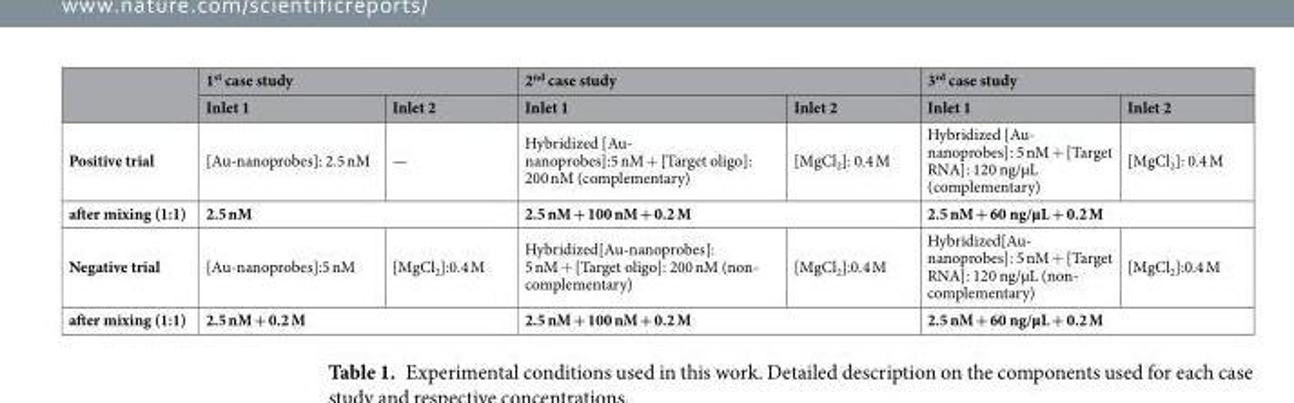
<table><thead><tr><td rowspan="2"></td><td colspan="2">1<sup>st</sup> case study</td><td colspan="2">2<sup>nd</sup> case study</td><td colspan="2">3<sup>rd</sup> case study</td></tr><tr><td>Inlet 1</td><td>Inlet 2</td><td>Inlet 1</td><td>Inlet 2</td><td>Inlet 1</td><td>Inlet 2</td></tr></thead><tbody><tr><td>Positive trial</td><td>[Au-nanoprobes]: 2.5 nM</td><td>—</td><td>Hybridized [Au- nanoprobes]:5 nM + [Target oligo]: 200 nM (complementary)</td><td>[MgCl<sub>2</sub>]: 0.4 M</td><td>Hybridized [Au- nanoprobes]: 5 nM + [Target RNA]: 120 ng/µL (complementary)</td><td>[MgCl<sub>2</sub>]: 0.4 M</td></tr><tr><td>after mixing (1:1)</td><td colspan="2">2.5 nM</td><td colspan="2">2.5 nM + 100 nM + 0.2 M</td><td colspan="2">2.5 nM + 60 ng/µL + 0.2 M</td></tr><tr><td>Negative trial</td><td>[Au-nanoprobes]:5 nM</td><td>[MgCl<sub>2</sub>]:0.4 M</td><td>Hybridized[Au-nanoprobes]: 5 nM + [Target oligo]: 200 nM (non- complementary)</td><td>[MgCl<sub>2</sub>]:0.4 M</td><td>Hybridized[Au- nanoprobes]: 5 nM + [Target RNA]: 120 ng/µL (non- complementary)</td><td>[MgCl<sub>2</sub>]:0.4 M</td></tr><tr><td>after mixing (1:1)</td><td colspan="2">2.5 nM + 0.2 M</td><td colspan="2">2.5 nM + 100 nM + 0.2 M</td><td colspan="2">2.5 nM + 60 ng/µL + 0.2 M</td></tr></tbody></table>